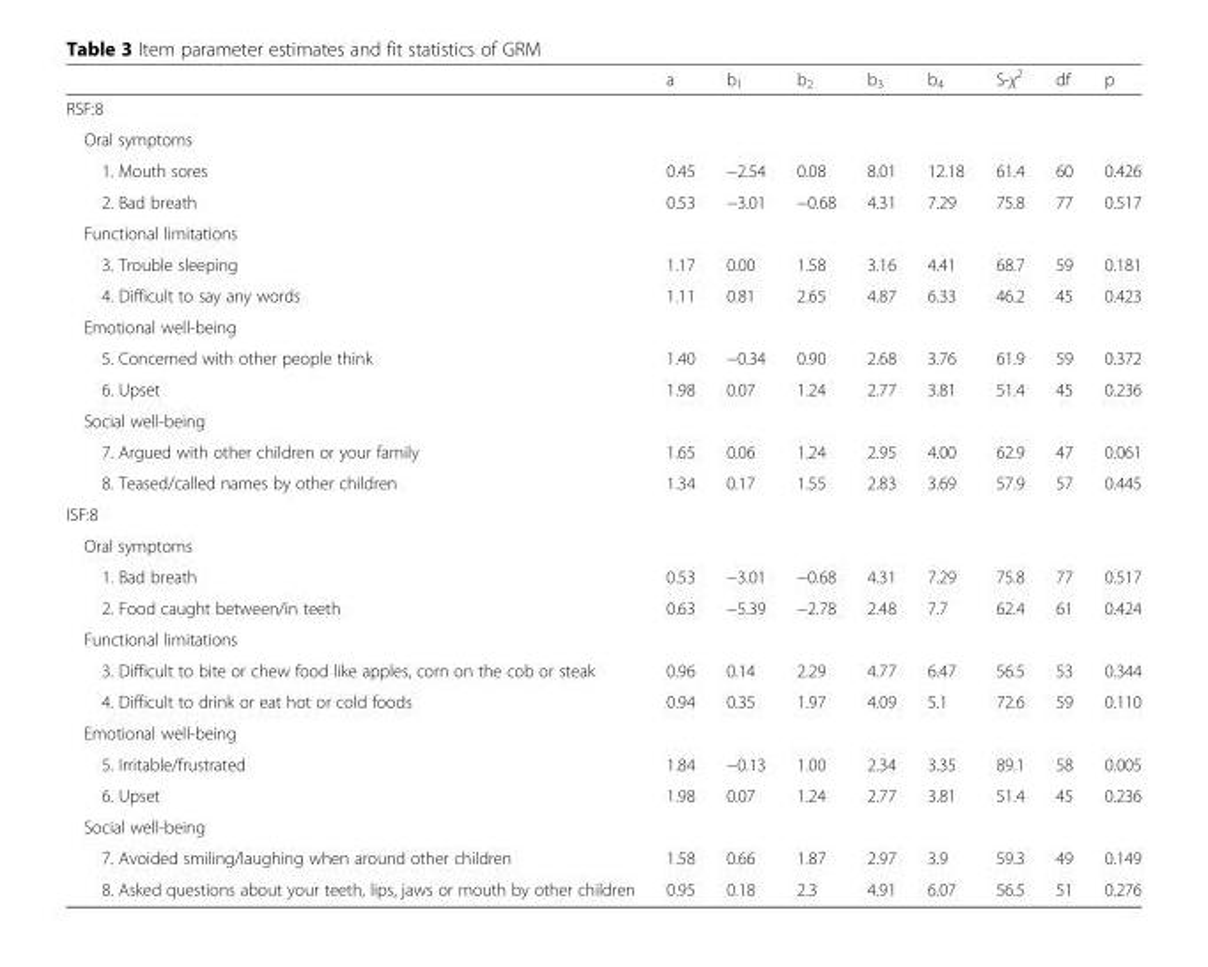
<table><thead><tr><td></td><td>a</td><td>b<sub>1</sub></td><td>b<sub>2</sub></td><td>b<sub>3</sub></td><td>b<sub>4</sub></td><td>S-χ<sup>2</sup></td><td>df</td><td>p</td></tr></thead><tbody><tr><td colspan="9">RSF:8</td></tr><tr><td colspan="9">Oral symptoms</td></tr><tr><td>1. Mouth sores</td><td>0.45</td><td>−2.54</td><td>0.08</td><td>8.01</td><td>12.18</td><td>61.4</td><td>60</td><td>0.426</td></tr><tr><td>2. Bad breath</td><td>0.53</td><td>−3.01</td><td>−0.68</td><td>4.31</td><td>7.29</td><td>75.8</td><td>77</td><td>0.517</td></tr><tr><td colspan="9">Functional limitations</td></tr><tr><td>3. Trouble sleeping</td><td>1.17</td><td>0.00</td><td>1.58</td><td>3.16</td><td>4.41</td><td>68.7</td><td>59</td><td>0.181</td></tr><tr><td>4. Difficult to say any words</td><td>1.11</td><td>0.81</td><td>2.65</td><td>4.87</td><td>6.33</td><td>46.2</td><td>45</td><td>0.423</td></tr><tr><td colspan="9">Emotional well-being</td></tr><tr><td>5. Concerned with other people think</td><td>1.40</td><td>−0.34</td><td>0.90</td><td>2.68</td><td>3.76</td><td>61.9</td><td>59</td><td>0.372</td></tr><tr><td>6. Upset</td><td>1.98</td><td>0.07</td><td>1.24</td><td>2.77</td><td>3.81</td><td>51.4</td><td>45</td><td>0.236</td></tr><tr><td colspan="9">Social well-being</td></tr><tr><td>7. Argued with other children or your family</td><td>1.65</td><td>0.06</td><td>1.24</td><td>2.95</td><td>4.00</td><td>62.9</td><td>47</td><td>0.061</td></tr><tr><td>8. Teased/called names by other children</td><td>1.34</td><td>0.17</td><td>1.55</td><td>2.83</td><td>3.69</td><td>57.9</td><td>57</td><td>0.445</td></tr><tr><td colspan="9">ISF:8</td></tr><tr><td colspan="9">Oral symptoms</td></tr><tr><td>1. Bad breath</td><td>0.53</td><td>−3.01</td><td>−0.68</td><td>4.31</td><td>7.29</td><td>75.8</td><td>77</td><td>0.517</td></tr><tr><td>2. Food caught between/in teeth</td><td>0.63</td><td>−5.39</td><td>−2.78</td><td>2.48</td><td>7.7</td><td>62.4</td><td>61</td><td>0.424</td></tr><tr><td colspan="9">Functional limitations</td></tr><tr><td>3. Difficult to bite or chew food like apples, corn on the cob or steak</td><td>0.96</td><td>0.14</td><td>2.29</td><td>4.77</td><td>6.47</td><td>56.5</td><td>53</td><td>0.344</td></tr><tr><td>4. Difficult to drink or eat hot or cold foods</td><td>0.94</td><td>0.35</td><td>1.97</td><td>4.09</td><td>5.1</td><td>72.6</td><td>59</td><td>0.110</td></tr><tr><td colspan="9">Emotional well-being</td></tr><tr><td>5. Irritable/frustrated</td><td>1.84</td><td>−0.13</td><td>1.00</td><td>2.34</td><td>3.35</td><td>89.1</td><td>58</td><td>0.005</td></tr><tr><td>6. Upset</td><td>1.98</td><td>0.07</td><td>1.24</td><td>2.77</td><td>3.81</td><td>51.4</td><td>45</td><td>0.236</td></tr><tr><td colspan="9">Social well-being</td></tr><tr><td>7. Avoided smiling/laughing when around other children</td><td>1.58</td><td>0.66</td><td>1.87</td><td>2.97</td><td>3.9</td><td>59.3</td><td>49</td><td>0.149</td></tr><tr><td>8. Asked questions about your teeth, lips, jaws or mouth by other children</td><td>0.95</td><td>0.18</td><td>2.3</td><td>4.91</td><td>6.07</td><td>56.5</td><td>51</td><td>0.276</td></tr></tbody></table>